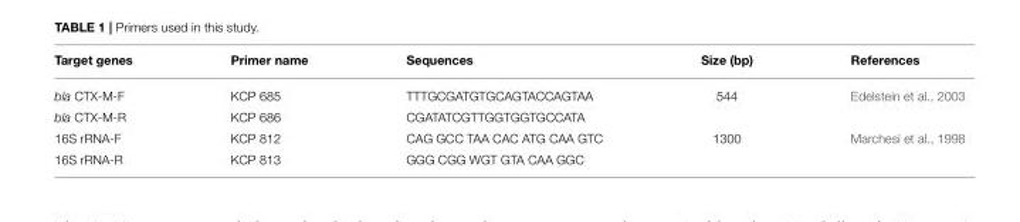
<table><thead><tr><td>Target genes</td><td>Primer name</td><td>Sequences</td><td>Size (bp)</td><td>References</td></tr></thead><tbody><tr><td>bla CTX-M-F</td><td>KCP 685</td><td>TTTGCGATGTGCAGTACCAGTAA</td><td>544</td><td>Edelstein et al., 2003</td></tr><tr><td>bla CTX-M-R</td><td>KCP 686</td><td>CGATATCGTTGGTGGTGCCATA</td><td></td><td></td></tr><tr><td>16S rRNA-F</td><td>KCP 812</td><td>CAG GCC TAA CAC ATG CAA GTC</td><td>1300</td><td>Marchesi et al., 1998</td></tr><tr><td>16S rRNA-R</td><td>KCP 813</td><td>GGG CGG WGT GTA CAA GGC</td><td></td><td></td></tr></tbody></table>